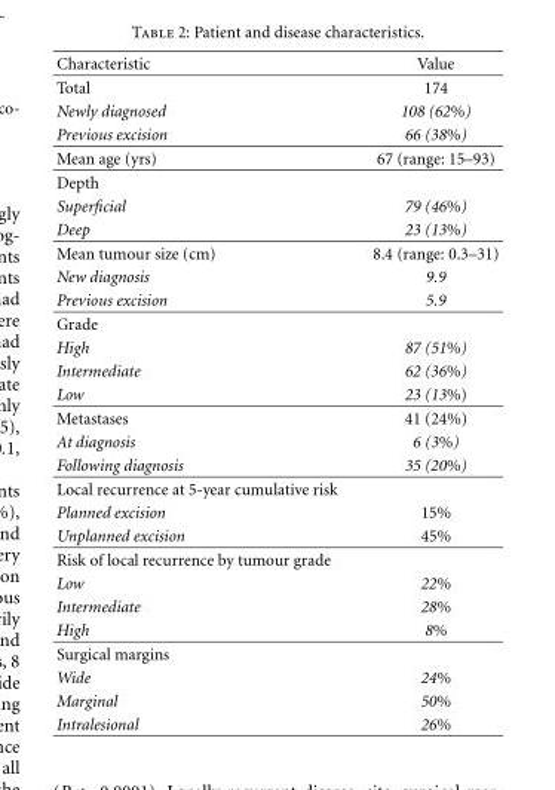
<table><thead><tr><td>Characteristic</td><td>Value</td></tr></thead><tbody><tr><td>Total</td><td>174</td></tr><tr><td>Newly diagnosed</td><td>108 (62%)</td></tr><tr><td>Previous excision</td><td>66 (38%)</td></tr><tr><td>Mean age (yrs)</td><td>67 (range: 15–93)</td></tr><tr><td colspan="2">Depth</td></tr><tr><td>Superficial</td><td>79 (46%)</td></tr><tr><td>Deep</td><td>23 (13%)</td></tr><tr><td>Mean tumour size (cm)</td><td>8.4 (range: 0.3–31)</td></tr><tr><td>New diagnosis</td><td>9.9</td></tr><tr><td>Previous excision</td><td>5.9</td></tr><tr><td colspan="2">Grade</td></tr><tr><td>High</td><td>87 (51%)</td></tr><tr><td>Intermediate</td><td>62 (36%)</td></tr><tr><td>Low</td><td>23 (13%)</td></tr><tr><td>Metastases</td><td>41 (24%)</td></tr><tr><td>At diagnosis</td><td>6 (3%)</td></tr><tr><td>Following diagnosis</td><td>35 (20%)</td></tr><tr><td colspan="2">Local recurrence at 5-year cumulative risk</td></tr><tr><td>Planned excision</td><td>15%</td></tr><tr><td>Unplanned excision</td><td>45%</td></tr><tr><td colspan="2">Risk of local recurrence by tumour grade</td></tr><tr><td>Low</td><td>22%</td></tr><tr><td>Intermediate</td><td>28%</td></tr><tr><td>High</td><td>8%</td></tr><tr><td colspan="2">Surgical margins</td></tr><tr><td>Wide</td><td>24%</td></tr><tr><td>Marginal</td><td>50%</td></tr><tr><td>Intralesional</td><td>26%</td></tr></tbody></table>